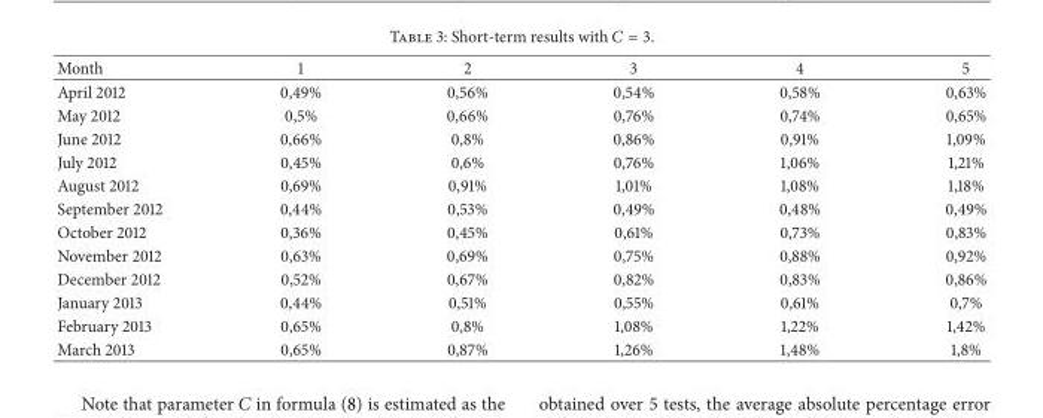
<table><thead><tr><td>Month</td><td>1</td><td>2</td><td>3</td><td>4</td><td>5</td></tr></thead><tbody><tr><td>April 2012</td><td>0,49%</td><td>0,56%</td><td>0,54%</td><td>0,58%</td><td>0,63%</td></tr><tr><td>May 2012</td><td>0,5%</td><td>0,66%</td><td>0,76%</td><td>0,74%</td><td>0,65%</td></tr><tr><td>June 2012</td><td>0,66%</td><td>0,8%</td><td>0,86%</td><td>0,91%</td><td>1,09%</td></tr><tr><td>July 2012</td><td>0,45%</td><td>0,6%</td><td>0,76%</td><td>1,06%</td><td>1,21%</td></tr><tr><td>August 2012</td><td>0,69%</td><td>0,91%</td><td>1,01%</td><td>1,08%</td><td>1,18%</td></tr><tr><td>September 2012</td><td>0,44%</td><td>0,53%</td><td>0,49%</td><td>0,48%</td><td>0,49%</td></tr><tr><td>October 2012</td><td>0,36%</td><td>0,45%</td><td>0,61%</td><td>0,73%</td><td>0,83%</td></tr><tr><td>November 2012</td><td>0,63%</td><td>0,69%</td><td>0,75%</td><td>0,88%</td><td>0,92%</td></tr><tr><td>December 2012</td><td>0,52%</td><td>0,67%</td><td>0,82%</td><td>0,83%</td><td>0,86%</td></tr><tr><td>January 2013</td><td>0,44%</td><td>0,51%</td><td>0,55%</td><td>0,61%</td><td>0,7%</td></tr><tr><td>February 2013</td><td>0,65%</td><td>0,8%</td><td>1,08%</td><td>1,22%</td><td>1,42%</td></tr><tr><td>March 2013</td><td>0,65%</td><td>0,87%</td><td>1,26%</td><td>1,48%</td><td>1,8%</td></tr></tbody></table>